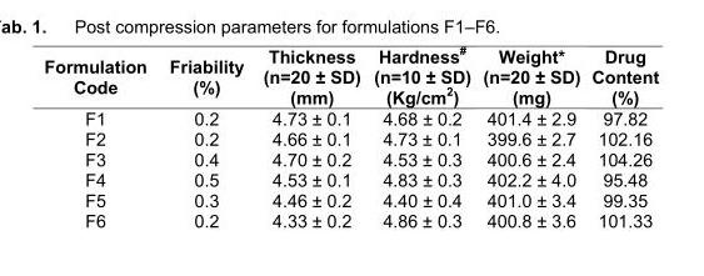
<table><thead><tr><td>Formulation Code</td><td>Friability (%)</td><td>Thickness (n=20 ± SD) (mm)</td><td>Hardness<sup>#</sup> (n=10 ± SD) (Kg/cm<sup>2</sup>)</td><td>Weight* (n=20 ± SD) (mg)</td><td>Drug Content (%)</td></tr></thead><tbody><tr><td>F1</td><td>0.2</td><td>4.73 ± 0.1</td><td>4.68 ± 0.2</td><td>401.4 ± 2.9</td><td>97.82</td></tr><tr><td>F2</td><td>0.2</td><td>4.66 ± 0.1</td><td>4.73 ± 0.1</td><td>399.6 ± 2.7</td><td>102.16</td></tr><tr><td>F3</td><td>0.4</td><td>4.70 ± 0.2</td><td>4.53 ± 0.3</td><td>400.6 ± 2.4</td><td>104.26</td></tr><tr><td>F4</td><td>0.5</td><td>4.53 ± 0.1</td><td>4.83 ± 0.3</td><td>402.2 ± 4.0</td><td>95.48</td></tr><tr><td>F5</td><td>0.3</td><td>4.46 ± 0.2</td><td>4.40 ± 0.4</td><td>401.0 ± 3.4</td><td>99.35</td></tr><tr><td>F6</td><td>0.2</td><td>4.33 ± 0.2</td><td>4.86 ± 0.3</td><td>400.8 ± 3.6</td><td>101.33</td></tr></tbody></table>